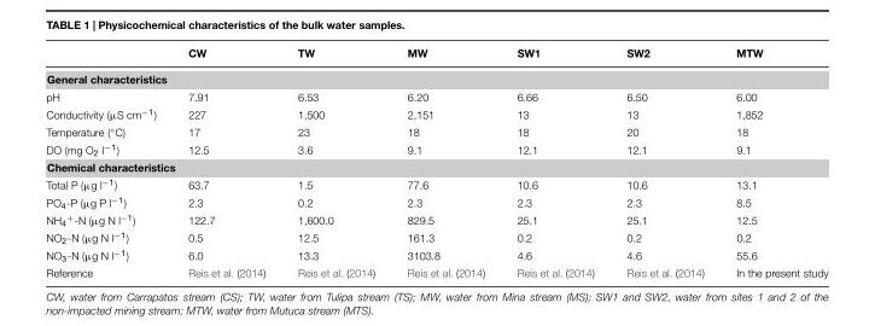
<table><thead><tr><td></td><td>CW</td><td>TW</td><td>MW</td><td>SW1</td><td>SW2</td><td>MTW</td></tr></thead><tbody><tr><td colspan="7">General characteristics</td></tr><tr><td>pH</td><td>7.91</td><td>6.53</td><td>6.20</td><td>6.66</td><td>6.50</td><td>6.00</td></tr><tr><td>Conductivity (μS cm<sup>−1</sup>)</td><td>227</td><td>1,500</td><td>2,151</td><td>13</td><td>13</td><td>1,852</td></tr><tr><td>Temperature (◦C)</td><td>17</td><td>23</td><td>18</td><td>18</td><td>20</td><td>18</td></tr><tr><td>DO (mg O<sub>2</sub> l<sup>−1</sup>)</td><td>12.5</td><td>3.6</td><td>9.1</td><td>12.1</td><td>12.1</td><td>9.1</td></tr><tr><td colspan="7">Chemical characteristics</td></tr><tr><td>Total P (μg l<sup>−1</sup>)</td><td>63.7</td><td>1.5</td><td>77.6</td><td>10.6</td><td>10.6</td><td>13.1</td></tr><tr><td>PO<sub>4</sub>-P (μg P l<sup>−1</sup>)</td><td>2.3</td><td>0.2</td><td>2.3</td><td>2.3</td><td>2.3</td><td>8.5</td></tr><tr><td>NH<sub>4</sub><sup>+</sup>-N (μg N l<sup>−1</sup>)</td><td>122.7</td><td>1,600.0</td><td>829.5</td><td>25.1</td><td>25.1</td><td>12.5</td></tr><tr><td>NO<sub>2</sub>-N (μg N l<sup>−1</sup>)</td><td>0.5</td><td>12.5</td><td>161.3</td><td>0.2</td><td>0.2</td><td>0.2</td></tr><tr><td>NO<sub>3</sub>-N (μg N l<sup>−1</sup>)</td><td>6.0</td><td>13.3</td><td>3103.8</td><td>4.6</td><td>4.6</td><td>55.6</td></tr><tr><td>Reference</td><td>Reis et al. (2014)</td><td>Reis et al. (2014)</td><td>Reis et al. (2014)</td><td>Reis et al. (2014)</td><td>Reis et al. (2014)</td><td>In the present study</td></tr></tbody></table>